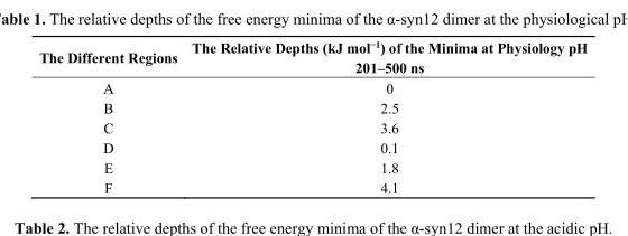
<table><thead><tr><td rowspan="2">The Different Regions</td><td rowspan="2">The Relative Depths (kJ mol<sup>−1</sup>) of the Minima at Physiology pH 201–500 ns</td></tr><tr></tr></thead><tbody><tr><td>A</td><td>0</td></tr><tr><td>B</td><td>2.5</td></tr><tr><td>C</td><td>3.6</td></tr><tr><td>D</td><td>0.1</td></tr><tr><td>E</td><td>1.8</td></tr><tr><td>F</td><td>4.1</td></tr></tbody></table>